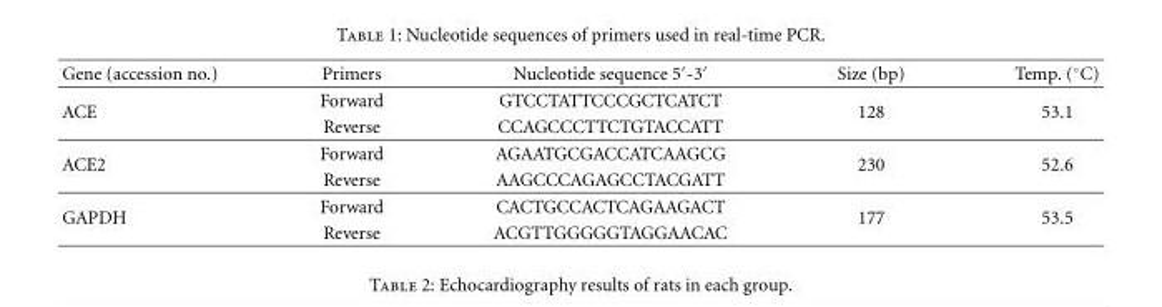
<table><thead><tr><td>Gene (accession no.)</td><td>Primers</td><td>Nucleotide sequence 5′-3′</td><td>Size (bp)</td><td>Temp. (◦C)</td></tr></thead><tbody><tr><td rowspan="2">ACE</td><td>Forward</td><td>GTCCTATTCCCGCTCATCT</td><td rowspan="2">128</td><td rowspan="2">53.1</td></tr><tr><td>Reverse</td><td>CCAGCCCTTCTGTACCATT</td></tr><tr><td rowspan="2">ACE2</td><td>Forward</td><td>AGAATGCGACCATCAAGCG</td><td rowspan="2">230</td><td rowspan="2">52.6</td></tr><tr><td>Reverse</td><td>AAGCCCAGAGCCTACGATT</td></tr><tr><td rowspan="2">GAPDH</td><td>Forward</td><td>CACTGCCACTCAGAAGACT</td><td rowspan="2">177</td><td rowspan="2">53.5</td></tr><tr><td>Reverse</td><td>ACGTTGGGGGTAGGAACAC</td></tr></tbody></table>